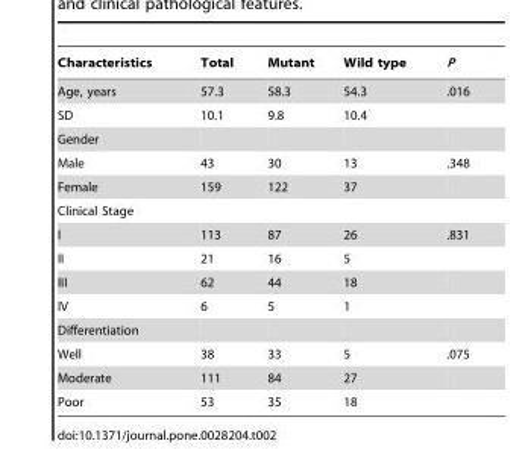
<table><thead><tr><td>Characteristics</td><td>Total</td><td>Mutant</td><td>Wild type</td><td>P</td></tr></thead><tbody><tr><td>Age, years</td><td>57.3</td><td>58.3</td><td>54.3</td><td>.016</td></tr><tr><td>SD</td><td>10.1</td><td>9.8</td><td>10.4</td><td></td></tr><tr><td colspan="5">Gender</td></tr><tr><td>Male</td><td>43</td><td>30</td><td>13</td><td>.348</td></tr><tr><td>Female</td><td>159</td><td>122</td><td>37</td><td></td></tr><tr><td colspan="5">Clinical Stage</td></tr><tr><td>I</td><td>113</td><td>87</td><td>26</td><td>.831</td></tr><tr><td>II</td><td>21</td><td>16</td><td>5</td><td></td></tr><tr><td>III</td><td>62</td><td>44</td><td>18</td><td></td></tr><tr><td>IV</td><td>6</td><td>5</td><td>1</td><td></td></tr><tr><td colspan="5">Differentiation</td></tr><tr><td>Well</td><td>38</td><td>33</td><td>5</td><td>.075</td></tr><tr><td>Moderate</td><td>111</td><td>84</td><td>27</td><td></td></tr><tr><td>Poor</td><td>53</td><td>35</td><td>18</td><td></td></tr></tbody></table>